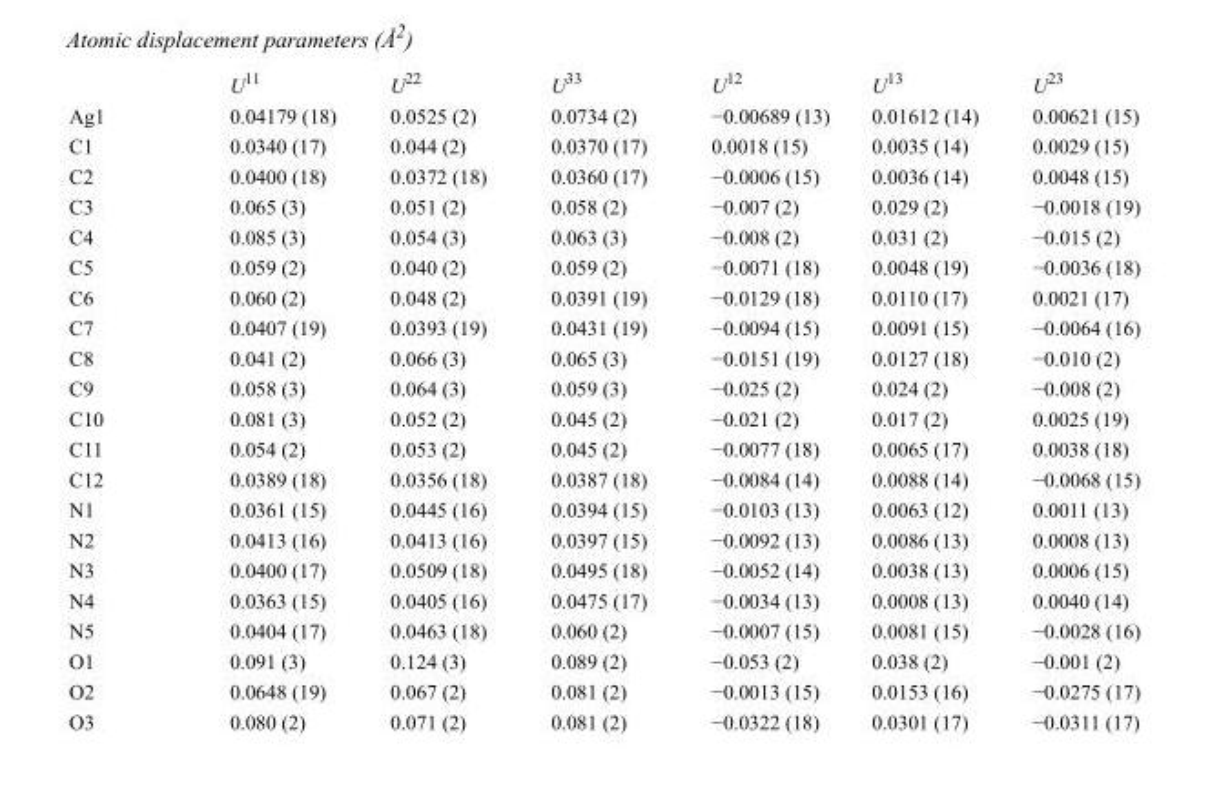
<table><thead><tr><td></td><td>U<sup>11</sup></td><td>U<sup>22</sup></td><td>U<sup>33</sup></td><td>U<sup>12</sup></td><td>U<sup>13</sup></td><td>U<sup>23</sup></td></tr></thead><tbody><tr><td>Ag1</td><td>0.04179 (18)</td><td>0.0525 (2)</td><td>0.0734 (2)</td><td>−0.00689 (13)</td><td>0.01612 (14)</td><td>0.00621 (15)</td></tr><tr><td>C1</td><td>0.0340 (17)</td><td>0.044 (2)</td><td>0.0370 (17)</td><td>0.0018 (15)</td><td>0.0035 (14)</td><td>0.0029 (15)</td></tr><tr><td>C2</td><td>0.0400 (18)</td><td>0.0372 (18)</td><td>0.0360 (17)</td><td>−0.0006 (15)</td><td>0.0036 (14)</td><td>0.0048 (15)</td></tr><tr><td>C3</td><td>0.065 (3)</td><td>0.051 (2)</td><td>0.058 (2)</td><td>−0.007 (2)</td><td>0.029 (2)</td><td>−0.0018 (19)</td></tr><tr><td>C4</td><td>0.085 (3)</td><td>0.054 (3)</td><td>0.063 (3)</td><td>−0.008 (2)</td><td>0.031 (2)</td><td>−0.015 (2)</td></tr><tr><td>C5</td><td>0.059 (2)</td><td>0.040 (2)</td><td>0.059 (2)</td><td>−0.0071 (18)</td><td>0.0048 (19)</td><td>−0.0036 (18)</td></tr><tr><td>C6</td><td>0.060 (2)</td><td>0.048 (2)</td><td>0.0391 (19)</td><td>−0.0129 (18)</td><td>0.0110 (17)</td><td>0.0021 (17)</td></tr><tr><td>C7</td><td>0.0407 (19)</td><td>0.0393 (19)</td><td>0.0431 (19)</td><td>−0.0094 (15)</td><td>0.0091 (15)</td><td>−0.0064 (16)</td></tr><tr><td>C8</td><td>0.041 (2)</td><td>0.066 (3)</td><td>0.065 (3)</td><td>−0.0151 (19)</td><td>0.0127 (18)</td><td>−0.010 (2)</td></tr><tr><td>C9</td><td>0.058 (3)</td><td>0.064 (3)</td><td>0.059 (3)</td><td>−0.025 (2)</td><td>0.024 (2)</td><td>−0.008 (2)</td></tr><tr><td>C10</td><td>0.081 (3)</td><td>0.052 (2)</td><td>0.045 (2)</td><td>−0.021 (2)</td><td>0.017 (2)</td><td>0.0025 (19)</td></tr><tr><td>C11</td><td>0.054 (2)</td><td>0.053 (2)</td><td>0.045 (2)</td><td>−0.0077 (18)</td><td>0.0065 (17)</td><td>0.0038 (18)</td></tr><tr><td>C12</td><td>0.0389 (18)</td><td>0.0356 (18)</td><td>0.0387 (18)</td><td>−0.0084 (14)</td><td>0.0088 (14)</td><td>−0.0068 (15)</td></tr><tr><td>N1</td><td>0.0361 (15)</td><td>0.0445 (16)</td><td>0.0394 (15)</td><td>−0.0103 (13)</td><td>0.0063 (12)</td><td>0.0011 (13)</td></tr><tr><td>N2</td><td>0.0413 (16)</td><td>0.0413 (16)</td><td>0.0397 (15)</td><td>−0.0092 (13)</td><td>0.0086 (13)</td><td>0.0008 (13)</td></tr><tr><td>N3</td><td>0.0400 (17)</td><td>0.0509 (18)</td><td>0.0495 (18)</td><td>−0.0052 (14)</td><td>0.0038 (13)</td><td>0.0006 (15)</td></tr><tr><td>N4</td><td>0.0363 (15)</td><td>0.0405 (16)</td><td>0.0475 (17)</td><td>−0.0034 (13)</td><td>0.0008 (13)</td><td>0.0040 (14)</td></tr><tr><td>N5</td><td>0.0404 (17)</td><td>0.0463 (18)</td><td>0.060 (2)</td><td>−0.0007 (15)</td><td>0.0081 (15)</td><td>−0.0028 (16)</td></tr><tr><td>O1</td><td>0.091 (3)</td><td>0.124 (3)</td><td>0.089 (2)</td><td>−0.053 (2)</td><td>0.038 (2)</td><td>−0.001 (2)</td></tr><tr><td>O2</td><td>0.0648 (19)</td><td>0.067 (2)</td><td>0.081 (2)</td><td>−0.0013 (15)</td><td>0.0153 (16)</td><td>−0.0275 (17)</td></tr><tr><td>O3</td><td>0.080 (2)</td><td>0.071 (2)</td><td>0.081 (2)</td><td>−0.0322 (18)</td><td>0.0301 (17)</td><td>−0.0311 (17)</td></tr></tbody></table>